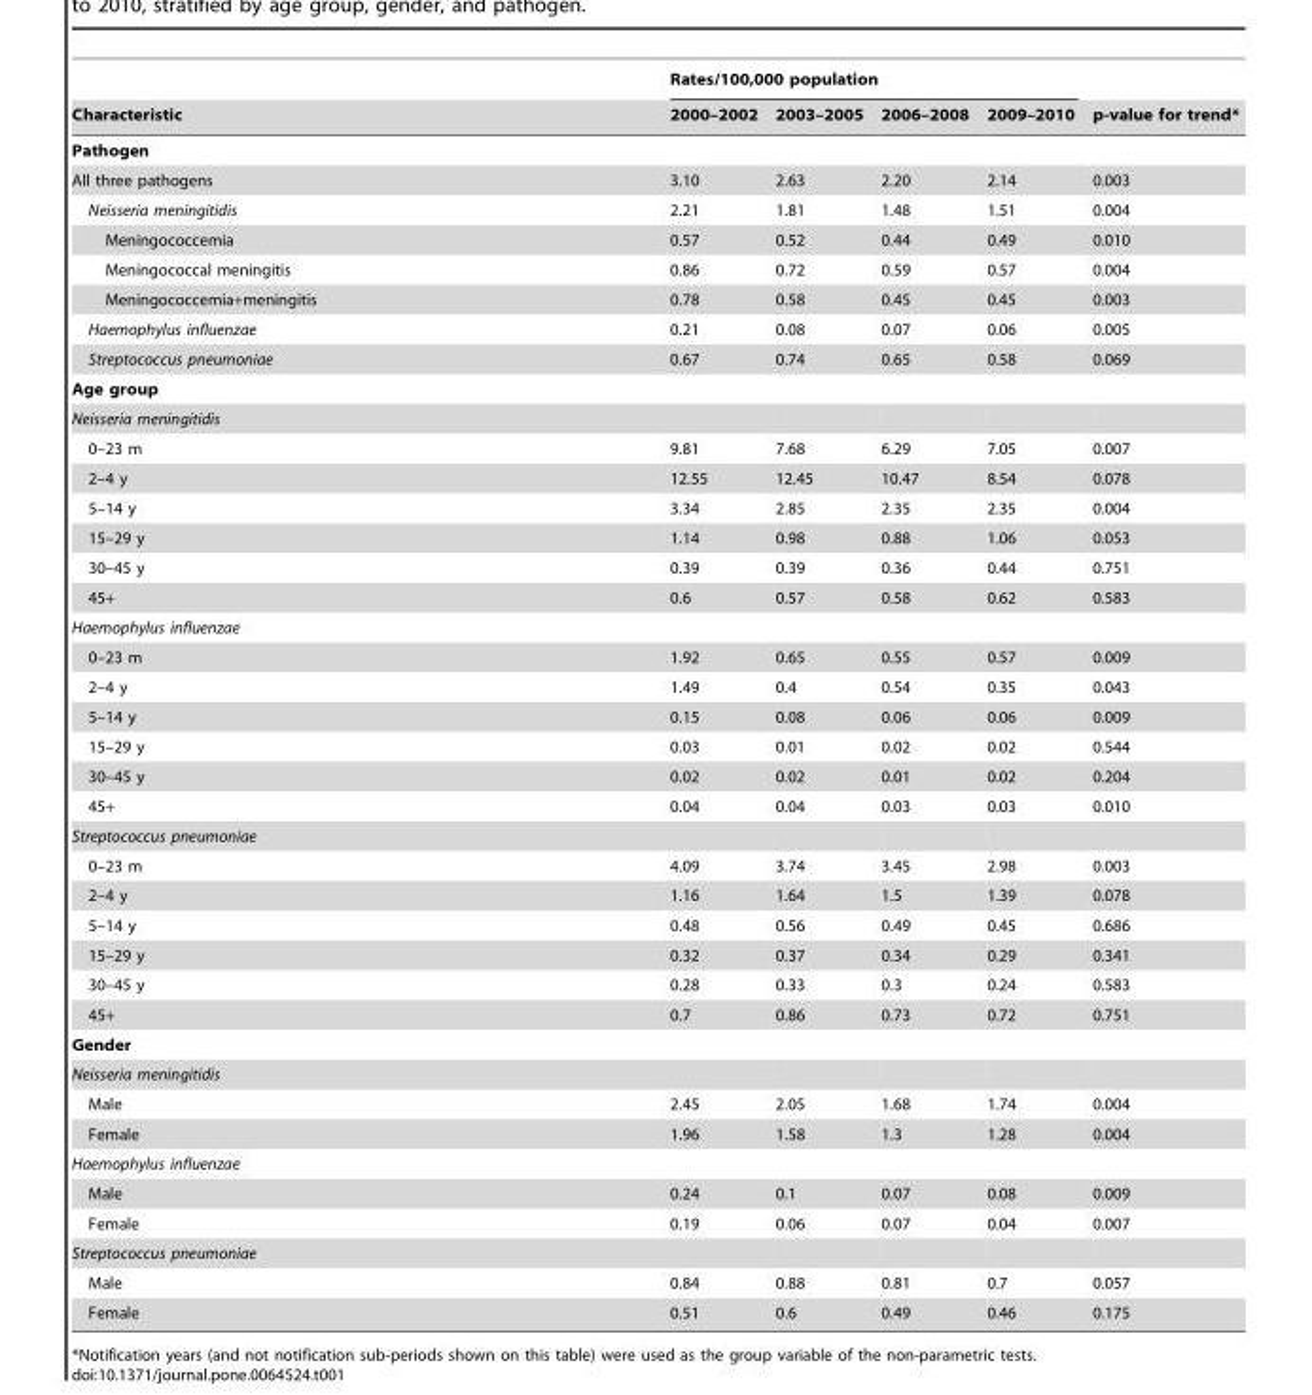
<table><thead><tr><td rowspan="2">Characteristic</td><td colspan="4">Rates/100,000 population</td><td rowspan="2">p-value for trend*</td></tr><tr><td>2000–2002</td><td>2003–2005</td><td>2006–2008</td><td>2009–2010</td></tr></thead><tbody><tr><td colspan="6">Pathogen</td></tr><tr><td>All three pathogens</td><td>3.10</td><td>2.63</td><td>2.20</td><td>2.14</td><td>0.003</td></tr><tr><td>Neisseria meningitidis</td><td>2.21</td><td>1.81</td><td>1.48</td><td>1.51</td><td>0.004</td></tr><tr><td>Meningococcemia</td><td>0.57</td><td>0.52</td><td>0.44</td><td>0.49</td><td>0.010</td></tr><tr><td>Meningococcal meningitis</td><td>0.86</td><td>0.72</td><td>0.59</td><td>0.57</td><td>0.004</td></tr><tr><td>Meningococcemia+meningitis</td><td>0.78</td><td>0.58</td><td>0.45</td><td>0.45</td><td>0.003</td></tr><tr><td>Haemophylus influenzae</td><td>0.21</td><td>0.08</td><td>0.07</td><td>0.06</td><td>0.005</td></tr><tr><td>Streptococcus pneumoniae</td><td>0.67</td><td>0.74</td><td>0.65</td><td>0.58</td><td>0.069</td></tr><tr><td colspan="6">Age group</td></tr><tr><td colspan="6">Neisseria meningitidis</td></tr><tr><td>0–23 m</td><td>9.81</td><td>7.68</td><td>6.29</td><td>7.05</td><td>0.007</td></tr><tr><td>2–4 y</td><td>12.55</td><td>12.45</td><td>10.47</td><td>8.54</td><td>0.078</td></tr><tr><td>5–14 y</td><td>3.34</td><td>2.85</td><td>2.35</td><td>2.35</td><td>0.004</td></tr><tr><td>15–29 y</td><td>1.14</td><td>0.98</td><td>0.88</td><td>1.06</td><td>0.053</td></tr><tr><td>30–45 y</td><td>0.39</td><td>0.39</td><td>0.36</td><td>0.44</td><td>0.751</td></tr><tr><td>45+</td><td>0.6</td><td>0.57</td><td>0.58</td><td>0.62</td><td>0.583</td></tr><tr><td colspan="6">Haemophylus influenzae</td></tr><tr><td>0–23 m</td><td>1.92</td><td>0.65</td><td>0.55</td><td>0.57</td><td>0.009</td></tr><tr><td>2–4 y</td><td>1.49</td><td>0.4</td><td>0.54</td><td>0.35</td><td>0.043</td></tr><tr><td>5–14 y</td><td>0.15</td><td>0.08</td><td>0.06</td><td>0.06</td><td>0.009</td></tr><tr><td>15–29 y</td><td>0.03</td><td>0.01</td><td>0.02</td><td>0.02</td><td>0.544</td></tr><tr><td>30–45 y</td><td>0.02</td><td>0.02</td><td>0.01</td><td>0.02</td><td>0.204</td></tr><tr><td>45+</td><td>0.04</td><td>0.04</td><td>0.03</td><td>0.03</td><td>0.010</td></tr><tr><td colspan="6">Streptococcus pneumoniae</td></tr><tr><td>0–23 m</td><td>4.09</td><td>3.74</td><td>3.45</td><td>2.98</td><td>0.003</td></tr><tr><td>2–4 y</td><td>1.16</td><td>1.64</td><td>1.5</td><td>1.39</td><td>0.078</td></tr><tr><td>5–14 y</td><td>0.48</td><td>0.56</td><td>0.49</td><td>0.45</td><td>0.686</td></tr><tr><td>15–29 y</td><td>0.32</td><td>0.37</td><td>0.34</td><td>0.29</td><td>0.341</td></tr><tr><td>30–45 y</td><td>0.28</td><td>0.33</td><td>0.3</td><td>0.24</td><td>0.583</td></tr><tr><td>45+</td><td>0.7</td><td>0.86</td><td>0.73</td><td>0.72</td><td>0.751</td></tr><tr><td colspan="6">Gender</td></tr><tr><td colspan="6">Neisseria meningitidis</td></tr><tr><td>Male</td><td>2.45</td><td>2.05</td><td>1.68</td><td>1.74</td><td>0.004</td></tr><tr><td>Female</td><td>1.96</td><td>1.58</td><td>1.3</td><td>1.28</td><td>0.004</td></tr><tr><td colspan="6">Haemophylus influenzae</td></tr><tr><td>Male</td><td>0.24</td><td>0.1</td><td>0.07</td><td>0.08</td><td>0.009</td></tr><tr><td>Female</td><td>0.19</td><td>0.06</td><td>0.07</td><td>0.04</td><td>0.007</td></tr><tr><td colspan="6">Streptococcus pneumoniae</td></tr><tr><td>Male</td><td>0.84</td><td>0.88</td><td>0.81</td><td>0.7</td><td>0.057</td></tr><tr><td>Female</td><td>0.51</td><td>0.6</td><td>0.49</td><td>0.46</td><td>0.175</td></tr></tbody></table>